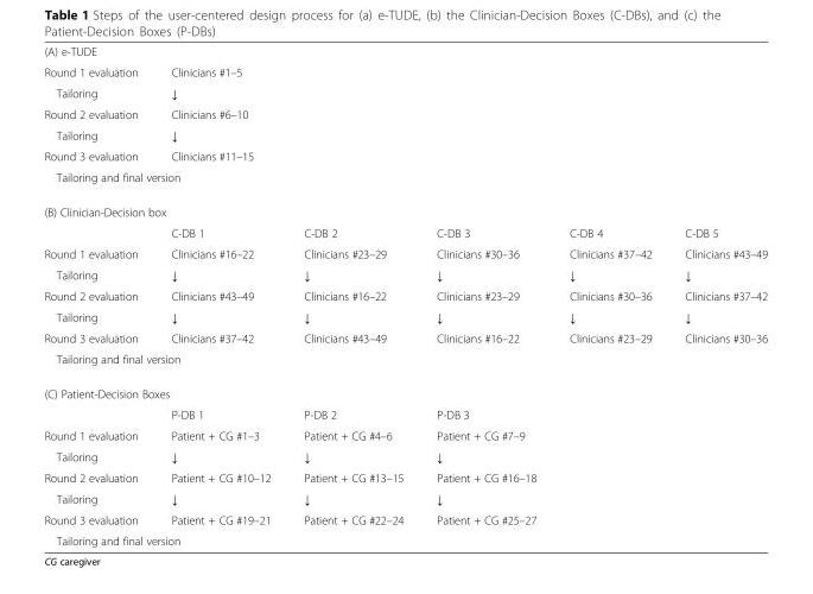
<table><tbody><tr><td colspan="6">(A) e-TUDE</td></tr><tr><td>Round 1 evaluation</td><td colspan="5">Clinicians #1–5</td></tr><tr><td>Tailoring</td><td colspan="5">↓</td></tr><tr><td>Round 2 evaluation</td><td colspan="5">Clinicians #6–10</td></tr><tr><td>Tailoring</td><td colspan="5">↓</td></tr><tr><td>Round 3 evaluation</td><td colspan="5">Clinicians #11–15</td></tr><tr><td colspan="6">Tailoring and final version</td></tr><tr><td colspan="6">(B) Clinician-Decision box</td></tr><tr><td></td><td>C-DB 1</td><td>C-DB 2</td><td>C-DB 3</td><td>C-DB 4</td><td>C-DB 5</td></tr><tr><td>Round 1 evaluation</td><td>Clinicians #16–22</td><td>Clinicians #23–29</td><td>Clinicians #30–36</td><td>Clinicians #37–42</td><td>Clinicians #43–49</td></tr><tr><td>Tailoring</td><td>↓</td><td>↓</td><td>↓</td><td>↓</td><td>↓</td></tr><tr><td>Round 2 evaluation</td><td>Clinicians #43–49</td><td>Clinicians #16–22</td><td>Clinicians #23–29</td><td>Clinicians #30–36</td><td>Clinicians #37–42</td></tr><tr><td>Tailoring</td><td>↓</td><td>↓</td><td>↓</td><td>↓</td><td>↓</td></tr><tr><td>Round 3 evaluation</td><td>Clinicians #37–42</td><td>Clinicians #43–49</td><td>Clinicians #16–22</td><td>Clinicians #23–29</td><td>Clinicians #30–36</td></tr><tr><td colspan="6">Tailoring and final version</td></tr><tr><td colspan="6">(C) Patient-Decision Boxes</td></tr><tr><td></td><td>P-DB 1</td><td>P-DB 2</td><td>P-DB 3</td><td></td><td></td></tr><tr><td>Round 1 evaluation</td><td>Patient + CG #1–3</td><td>Patient + CG #4–6</td><td>Patient + CG #7–9</td><td></td><td></td></tr><tr><td>Tailoring</td><td>↓</td><td>↓</td><td>↓</td><td></td><td></td></tr><tr><td>Round 2 evaluation</td><td>Patient + CG #10–12</td><td>Patient + CG #13–15</td><td>Patient + CG #16–18</td><td></td><td></td></tr><tr><td>Tailoring</td><td>↓</td><td>↓</td><td>↓</td><td></td><td></td></tr><tr><td>Round 3 evaluation</td><td>Patient + CG #19–21</td><td>Patient + CG #22–24</td><td>Patient + CG #25–27</td><td></td><td></td></tr><tr><td colspan="6">Tailoring and final version</td></tr></tbody></table>